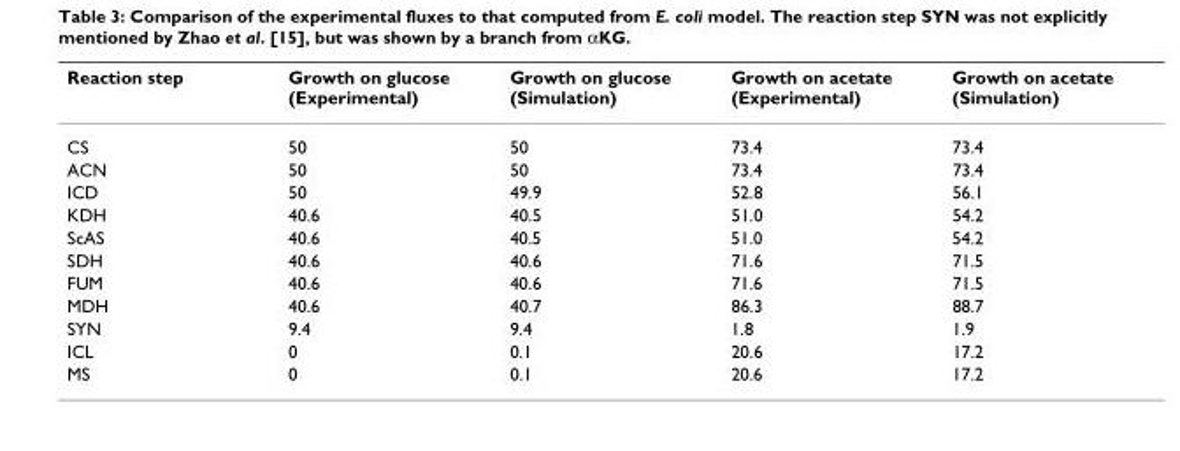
<table><thead><tr><td>Reaction step</td><td>Growth on glucose (Experimental)</td><td>Growth on glucose (Simulation)</td><td>Growth on acetate (Experimental)</td><td>Growth on acetate (Simulation)</td></tr></thead><tbody><tr><td>CS</td><td>50</td><td>50</td><td>73.4</td><td>73.4</td></tr><tr><td>ACN</td><td>50</td><td>50</td><td>73.4</td><td>73.4</td></tr><tr><td>ICD</td><td>50</td><td>49.9</td><td>52.8</td><td>56.1</td></tr><tr><td>KDH</td><td>40.6</td><td>40.5</td><td>51.0</td><td>54.2</td></tr><tr><td>ScAS</td><td>40.6</td><td>40.5</td><td>51.0</td><td>54.2</td></tr><tr><td>SDH</td><td>40.6</td><td>40.6</td><td>71.6</td><td>71.5</td></tr><tr><td>FUM</td><td>40.6</td><td>40.6</td><td>71.6</td><td>71.5</td></tr><tr><td>MDH</td><td>40.6</td><td>40.7</td><td>86.3</td><td>88.7</td></tr><tr><td>SYN</td><td>9.4</td><td>9.4</td><td>1.8</td><td>1.9</td></tr><tr><td>ICL</td><td>0</td><td>0.1</td><td>20.6</td><td>17.2</td></tr><tr><td>MS</td><td>0</td><td>0.1</td><td>20.6</td><td>17.2</td></tr></tbody></table>